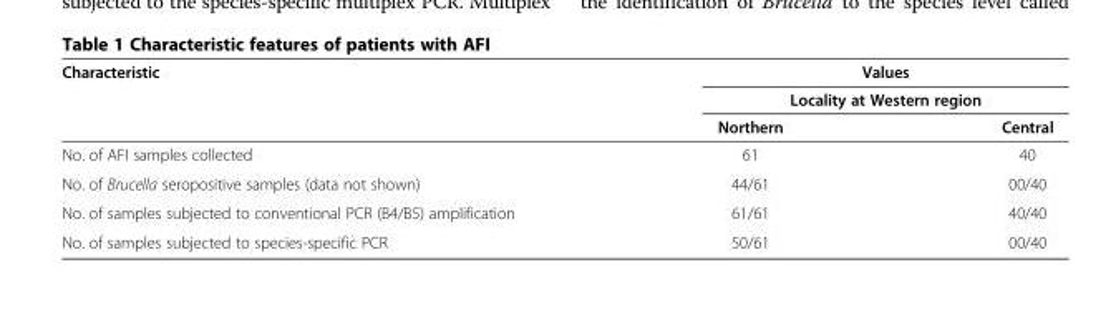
<table><thead><tr><td rowspan="3">Characteristic</td><td rowspan="2" colspan="2">Values Locality at Western region</td></tr><tr></tr><tr><td>Northern</td><td>Central</td></tr></thead><tbody><tr><td>No. of AFI samples collected</td><td>61</td><td>40</td></tr><tr><td>No. of Brucella seropositive samples (data not shown)</td><td>44/61</td><td>00/40</td></tr><tr><td>No. of samples subjected to conventional PCR (B4/B5) amplification</td><td>61/61</td><td>40/40</td></tr><tr><td>No. of samples subjected to species-specific PCR</td><td>50/61</td><td>00/40</td></tr></tbody></table>